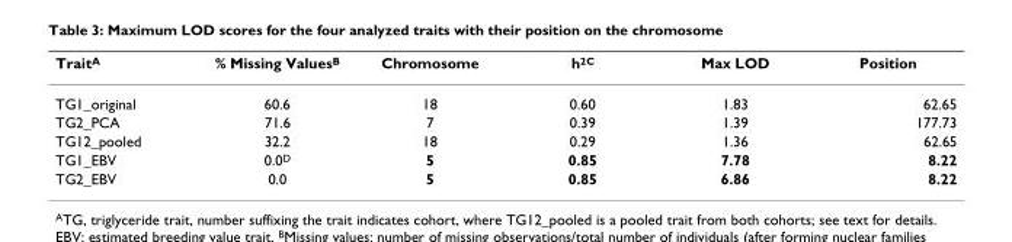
<table><thead><tr><td>TraitA</td><td>% Missing ValuesB</td><td>Chromosome</td><td>h2C</td><td>Max LOD</td><td>Position</td></tr></thead><tbody><tr><td>TG1_original</td><td>60.6</td><td>18</td><td>0.60</td><td>1.83</td><td>62.65</td></tr><tr><td>TG2_PCA</td><td>71.6</td><td>7</td><td>0.39</td><td>1.39</td><td>177.73</td></tr><tr><td>TG12_pooled</td><td>32.2</td><td>18</td><td>0.29</td><td>1.36</td><td>62.65</td></tr><tr><td>TG1_EBV</td><td>0.0D</td><td>5</td><td>0.85</td><td>7.78</td><td>8.22</td></tr><tr><td>TG2_EBV</td><td>0.0</td><td>5</td><td>0.85</td><td>6.86</td><td>8.22</td></tr></tbody></table>